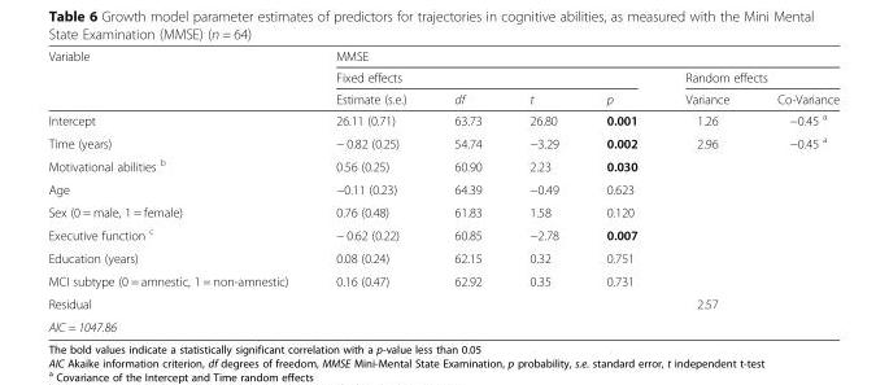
<table><thead><tr><td rowspan="3">Variable</td><td colspan="6">MMSE</td></tr><tr><td colspan="4">Fixed effects</td><td colspan="2">Random effects</td></tr><tr><td>Estimate (s.e.)</td><td>df</td><td>t</td><td>p</td><td>Variance</td><td>Co-Variance</td></tr></thead><tbody><tr><td>Intercept</td><td>26.11 (0.71)</td><td>63.73</td><td>26.80</td><td>0.001</td><td>1.26</td><td>−0.45 <sup>a</sup></td></tr><tr><td>Time (years)</td><td>− 0.82 (0.25)</td><td>54.74</td><td>−3.29</td><td>0.002</td><td>2.96</td><td>−0.45 <sup>a</sup></td></tr><tr><td>Motivational abilities <sup>b</sup></td><td>0.56 (0.25)</td><td>60.90</td><td>2.23</td><td>0.030</td><td></td><td></td></tr><tr><td>Age</td><td>−0.11 (0.23)</td><td>64.39</td><td>−0.49</td><td>0.623</td><td></td><td></td></tr><tr><td>Sex (0 = male, 1 = female)</td><td>0.76 (0.48)</td><td>61.83</td><td>1.58</td><td>0.120</td><td></td><td></td></tr><tr><td>Executive function <sup>c</sup></td><td>− 0.62 (0.22)</td><td>60.85</td><td>−2.78</td><td>0.007</td><td></td><td></td></tr><tr><td>Education (years)</td><td>0.08 (0.24)</td><td>62.15</td><td>0.32</td><td>0.751</td><td></td><td></td></tr><tr><td>MCI subtype (0 = amnestic, 1 = non-amnestic)</td><td>0.16 (0.47)</td><td>62.92</td><td>0.35</td><td>0.731</td><td></td><td></td></tr><tr><td>Residual</td><td></td><td></td><td></td><td></td><td>2.57</td><td></td></tr><tr><td>AIC = 1047.86</td><td></td><td></td><td></td><td></td><td></td><td></td></tr></tbody></table>